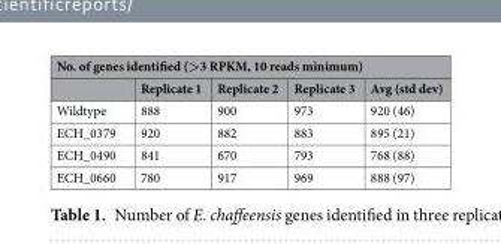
<table><thead><tr><td colspan="5">No. of genes identified (&gt;3 RPKM, 10 reads minimum)</td></tr><tr><td></td><td>Replicate 1</td><td>Replicate 2</td><td>Replicate 3</td><td>Avg (std dev)</td></tr></thead><tbody><tr><td>Wildtype</td><td>888</td><td>900</td><td>973</td><td>920 (46)</td></tr><tr><td>ECH_0379</td><td>920</td><td>882</td><td>883</td><td>895 (21)</td></tr><tr><td>ECH_0490</td><td>841</td><td>670</td><td>793</td><td>768 (88)</td></tr><tr><td>ECH_0660</td><td>780</td><td>917</td><td>969</td><td>888 (97)</td></tr></tbody></table>